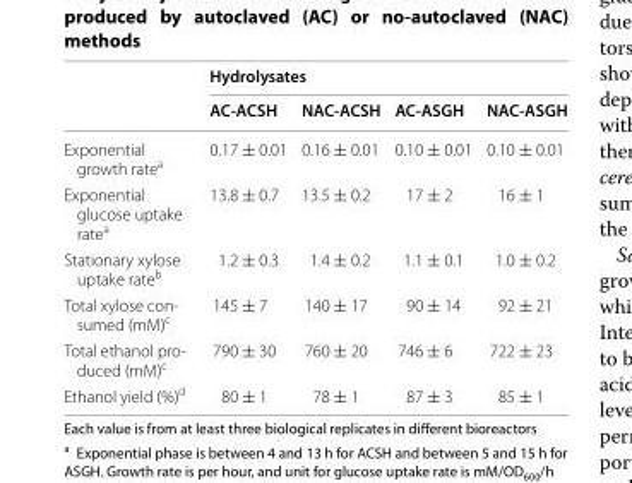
<table><thead><tr><td rowspan="2"></td><td colspan="4">Hydrolysates</td></tr><tr><td>AC-ACSH</td><td>NAC-ACSH</td><td>AC-ASGH</td><td>NAC-ASGH</td></tr></thead><tbody><tr><td>Exponential growth rate<sup>a</sup></td><td>0.17 ± 0.01</td><td>0.16 ± 0.01</td><td>0.10 ± 0.01</td><td>0.10 ± 0.01</td></tr><tr><td>Exponential glucose uptake rate<sup>a</sup></td><td>13.8 ± 0.7</td><td>13.5 ± 0.2</td><td>17 ± 2</td><td>16 ± 1</td></tr><tr><td>Stationary xylose uptake rate<sup>b</sup></td><td>1.2 ± 0.3</td><td>1.4 ± 0.2</td><td>1.1 ± 0.1</td><td>1.0 ± 0.2</td></tr><tr><td>Total xylose con- sumed (mM)c</td><td>145 ± 7</td><td>140 ± 17</td><td>90 ± 14</td><td>92 ± 21</td></tr><tr><td>Total ethanol pro- duced (mM)c</td><td>790 ± 30</td><td>760 ± 20</td><td>746 ± 6</td><td>722 ± 23</td></tr><tr><td>Ethanol yield (%)<sup>d</sup></td><td>80 ± 1</td><td>78 ± 1</td><td>87 ± 3</td><td>85 ± 1</td></tr></tbody></table>